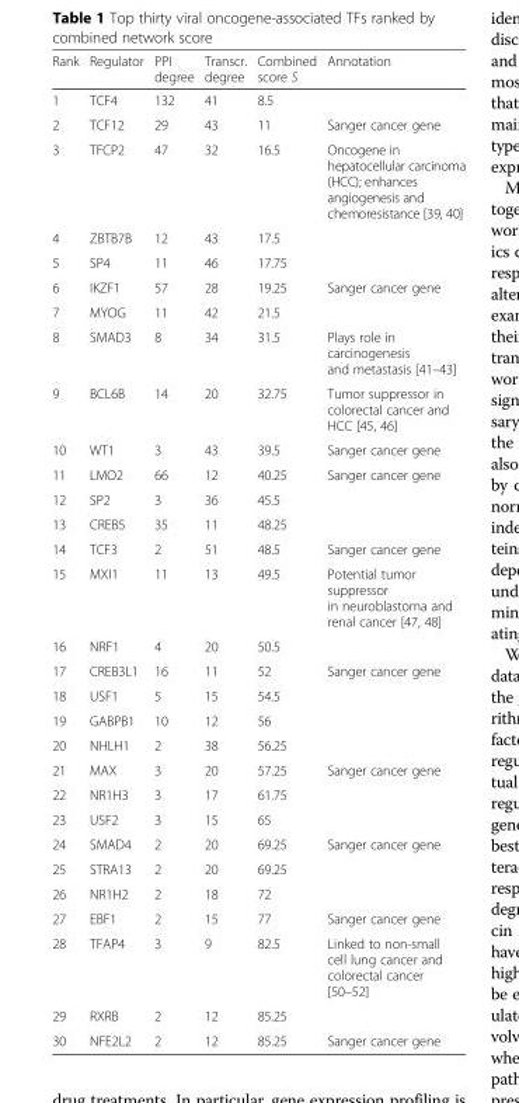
<table><thead><tr><td>Rank</td><td>Regulator</td><td>PPI degree</td><td>Transcr. degree</td><td>Combined score S</td><td>Annotation</td></tr></thead><tbody><tr><td>1</td><td>TCF4</td><td>132</td><td>41</td><td>8.5</td><td></td></tr><tr><td>2</td><td>TCF12</td><td>29</td><td>43</td><td>11</td><td>Sanger cancer gene</td></tr><tr><td>3</td><td>TFCP2</td><td>47</td><td>32</td><td>16.5</td><td>Oncogene in hepatocellular carcinoma (HCC); enhances angiogenesis and chemoresistance [39, 40]</td></tr><tr><td>4</td><td>ZBTB7B</td><td>12</td><td>43</td><td>17.5</td><td></td></tr><tr><td>5</td><td>SP4</td><td>11</td><td>46</td><td>17.75</td><td></td></tr><tr><td>6</td><td>IKZF1</td><td>57</td><td>28</td><td>19.25</td><td>Sanger cancer gene</td></tr><tr><td>7</td><td>MYOG</td><td>11</td><td>42</td><td>21.5</td><td></td></tr><tr><td>8</td><td>SMAD3</td><td>8</td><td>34</td><td>31.5</td><td>Plays role in carcinogenesis and metastasis [41–43]</td></tr><tr><td>9</td><td>BCL6B</td><td>14</td><td>20</td><td>32.75</td><td>Tumor suppressor in colorectal cancer and HCC [45, 46]</td></tr><tr><td>10</td><td>WT1</td><td>3</td><td>43</td><td>39.5</td><td>Sanger cancer gene</td></tr><tr><td>11</td><td>LMO2</td><td>66</td><td>12</td><td>40.25</td><td>Sanger cancer gene</td></tr><tr><td>12</td><td>SP2</td><td>3</td><td>36</td><td>45.5</td><td></td></tr><tr><td>13</td><td>CREB5</td><td>35</td><td>11</td><td>48.25</td><td></td></tr><tr><td>14</td><td>TCF3</td><td>2</td><td>51</td><td>48.5</td><td>Sanger cancer gene</td></tr><tr><td>15</td><td>MXI1</td><td>11</td><td>13</td><td>49.5</td><td>Potential tumor suppressor in neuroblastoma and renal cancer [47, 48]</td></tr><tr><td>16</td><td>NRF1</td><td>4</td><td>20</td><td>50.5</td><td></td></tr><tr><td>17</td><td>CREB3L1</td><td>16</td><td>11</td><td>52</td><td>Sanger cancer gene</td></tr><tr><td>18</td><td>USF1</td><td>5</td><td>15</td><td>54.5</td><td></td></tr><tr><td>19</td><td>GABPB1</td><td>10</td><td>12</td><td>56</td><td></td></tr><tr><td>20</td><td>NHLH1</td><td>2</td><td>38</td><td>56.25</td><td></td></tr><tr><td>21</td><td>MAX</td><td>3</td><td>20</td><td>57.25</td><td>Sanger cancer gene</td></tr><tr><td>22</td><td>NR1H3</td><td>3</td><td>17</td><td>61.75</td><td></td></tr><tr><td>23</td><td>USF2</td><td>3</td><td>15</td><td>65</td><td></td></tr><tr><td>24</td><td>SMAD4</td><td>2</td><td>20</td><td>69.25</td><td>Sanger cancer gene</td></tr><tr><td>25</td><td>STRA13</td><td>2</td><td>20</td><td>69.25</td><td></td></tr><tr><td>26</td><td>NR1H2</td><td>2</td><td>18</td><td>72</td><td></td></tr><tr><td>27</td><td>EBF1</td><td>2</td><td>15</td><td>77</td><td>Sanger cancer gene</td></tr><tr><td>28</td><td>TFAP4</td><td>3</td><td>9</td><td>82.5</td><td>Linked to non-small cell lung cancer and colorectal cancer [50–52]</td></tr><tr><td>29</td><td>RXRB</td><td>2</td><td>12</td><td>85.25</td><td></td></tr><tr><td>30</td><td>NFE2L2</td><td>2</td><td>12</td><td>85.25</td><td>Sanger cancer gene</td></tr></tbody></table>